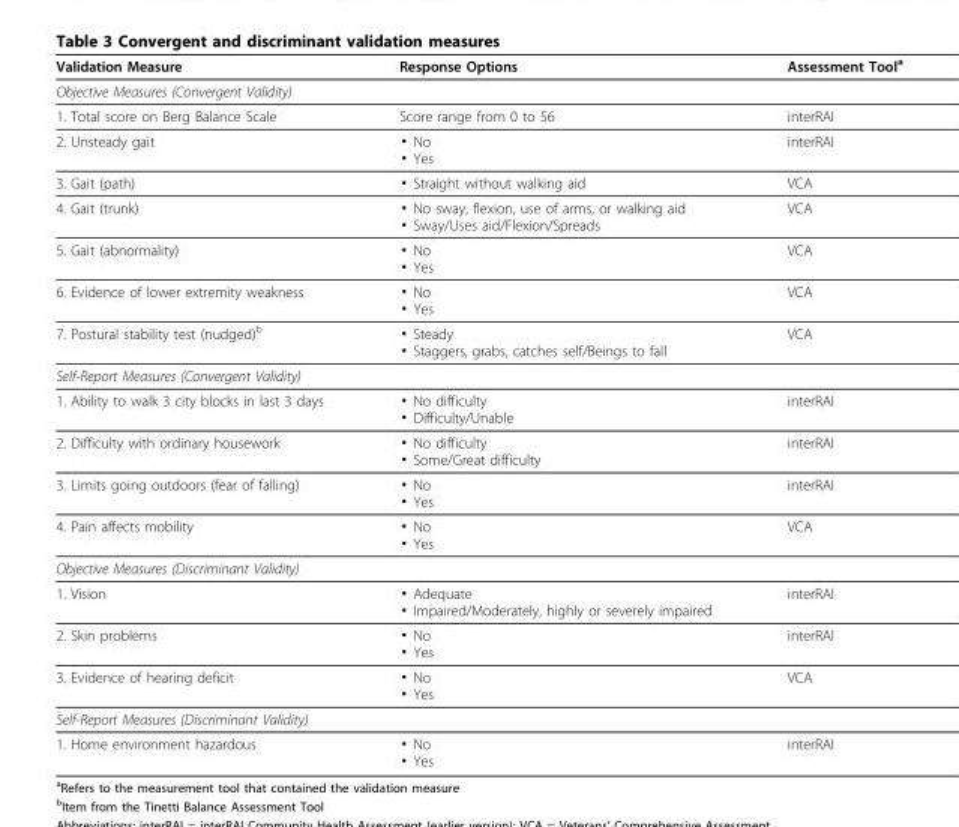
<table><thead><tr><td>Validation Measure</td><td>Response Options</td><td>Assessment Tool<sup>a</sup></td></tr></thead><tbody><tr><td colspan="3">Objective Measures (Convergent Validity)</td></tr><tr><td>1. Total score on Berg Balance Scale</td><td>Score range from 0 to 56</td><td>interRAI</td></tr><tr><td>2. Unsteady gait</td><td>▪ No ▪ Yes</td><td>interRAI</td></tr><tr><td>3. Gait (path)</td><td>▪ Straight without walking aid</td><td>VCA</td></tr><tr><td>4. Gait (trunk)</td><td>▪ No sway, flexion, use of arms, or walking aid ▪ Sway/Uses aid/Flexion/Spreads</td><td>VCA</td></tr><tr><td>5. Gait (abnormality)</td><td>▪ No ▪ Yes</td><td>VCA</td></tr><tr><td>6. Evidence of lower extremity weakness</td><td>▪ No ▪ Yes</td><td>VCA</td></tr><tr><td>7. Postural stability test (nudged)<sup>b</sup></td><td>▪ Steady ▪ Staggers, grabs, catches self/Beings to fall</td><td>VCA</td></tr><tr><td colspan="3">Self-Report Measures (Convergent Validity)</td></tr><tr><td>1. Ability to walk 3 city blocks in last 3 days</td><td>▪ No difficulty ▪ Difficulty/Unable</td><td>interRAI</td></tr><tr><td>2. Difficulty with ordinary housework</td><td>▪ No difficulty ▪ Some/Great difficulty</td><td>interRAI</td></tr><tr><td>3. Limits going outdoors (fear of falling)</td><td>▪ No ▪ Yes</td><td>interRAI</td></tr><tr><td>4. Pain affects mobility</td><td>▪ No ▪ Yes</td><td>VCA</td></tr><tr><td colspan="3">Objective Measures (Discriminant Validity)</td></tr><tr><td>1. Vision</td><td>▪ Adequate ▪ Impaired/Moderately, highly or severely impaired</td><td>interRAI</td></tr><tr><td>2. Skin problems</td><td>▪ No ▪ Yes</td><td>interRAI</td></tr><tr><td>3. Evidence of hearing deficit</td><td>▪ No ▪ Yes</td><td>VCA</td></tr><tr><td colspan="3">Self-Report Measures (Discriminant Validity)</td></tr><tr><td>1. Home environment hazardous</td><td>▪ No ▪ Yes</td><td>interRAI</td></tr></tbody></table>